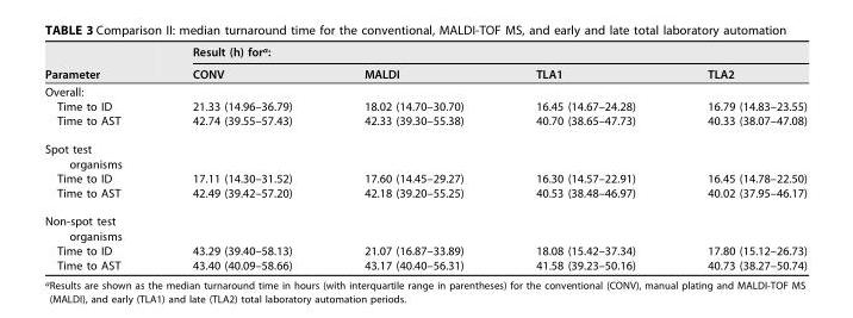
<table><thead><tr><td rowspan="2">Parameter</td><td colspan="4">Result (h) for<sup>a</sup>:</td></tr><tr><td>CONV</td><td>MALDI</td><td>TLA1</td><td>TLA2</td></tr></thead><tbody><tr><td colspan="5">Overall:</td></tr><tr><td>Time to ID</td><td>21.33 (14.96–36.79)</td><td>18.02 (14.70–30.70)</td><td>16.45 (14.67–24.28)</td><td>16.79 (14.83–23.55)</td></tr><tr><td>Time to AST</td><td>42.74 (39.55–57.43)</td><td>42.33 (39.30–55.38)</td><td>40.70 (38.65–47.73)</td><td>40.33 (38.07–47.08)</td></tr><tr><td colspan="5">Spot test organisms</td></tr><tr><td>Time to ID</td><td>17.11 (14.30–31.52)</td><td>17.60 (14.45–29.27)</td><td>16.30 (14.57–22.91)</td><td>16.45 (14.78–22.50)</td></tr><tr><td>Time to AST</td><td>42.49 (39.42–57.20)</td><td>42.18 (39.20–55.25)</td><td>40.53 (38.48–46.97)</td><td>40.02 (37.95–46.17)</td></tr><tr><td colspan="5">Non-spot test organisms</td></tr><tr><td>Time to ID</td><td>43.29 (39.40–58.13)</td><td>21.07 (16.87–33.89)</td><td>18.08 (15.42–37.34)</td><td>17.80 (15.12–26.73)</td></tr><tr><td>Time to AST</td><td>43.40 (40.09–58.66)</td><td>43.17 (40.40–56.31)</td><td>41.58 (39.23–50.16)</td><td>40.73 (38.27–50.74)</td></tr></tbody></table>